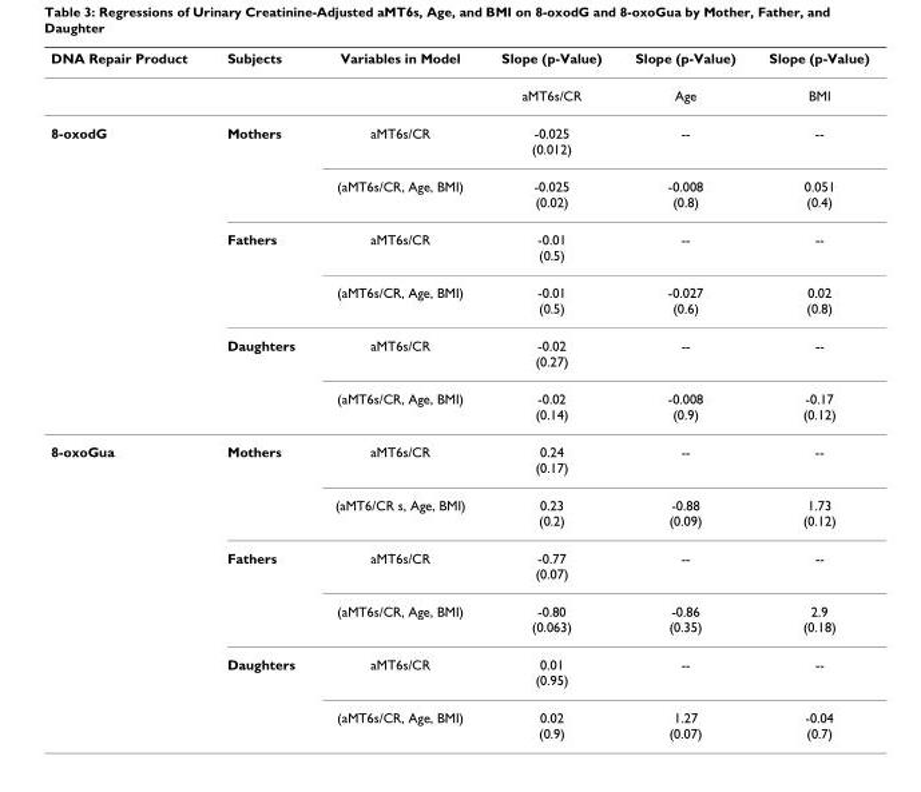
<table><thead><tr><td>DNA Repair Product</td><td>Subjects</td><td>Variables in Model</td><td>Slope (p-Value)</td><td>Slope (p-Value)</td><td>Slope (p-Value)</td></tr></thead><tbody><tr><td></td><td></td><td></td><td>aMT6s/CR</td><td>Age</td><td>BMI</td></tr><tr><td rowspan="6">8-oxodG</td><td>Mothers</td><td>aMT6s/CR</td><td>-0.025 (0.012)</td><td>--</td><td>--</td></tr><tr><td></td><td>(aMT6s/CR, Age, BMI)</td><td>-0.025 (0.02)</td><td>-0.008 (0.8)</td><td>0.051 (0.4)</td></tr><tr><td>Fathers</td><td>aMT6s/CR</td><td>-0.01 (0.5)</td><td>--</td><td>--</td></tr><tr><td></td><td>(aMT6s/CR, Age, BMI)</td><td>-0.01 (0.5)</td><td>-0.027 (0.6)</td><td>0.02 (0.8)</td></tr><tr><td>Daughters</td><td>aMT6s/CR</td><td>-0.02 (0.27)</td><td>--</td><td>--</td></tr><tr><td></td><td>(aMT6s/CR, Age, BMI)</td><td>-0.02 (0.14)</td><td>-0.008 (0.9)</td><td>-0.17 (0.12)</td></tr><tr><td rowspan="6">8-oxoGua</td><td>Mothers</td><td>aMT6s/CR</td><td>0.24 (0.17)</td><td>--</td><td>--</td></tr><tr><td></td><td>(aMT6/CR s, Age, BMI)</td><td>0.23 (0.2)</td><td>-0.88 (0.09)</td><td>1.73 (0.12)</td></tr><tr><td>Fathers</td><td>aMT6s/CR</td><td>-0.77 (0.07)</td><td>--</td><td>--</td></tr><tr><td></td><td>(aMT6s/CR, Age, BMI)</td><td>-0.80 (0.063)</td><td>-0.86 (0.35)</td><td>2.9 (0.18)</td></tr><tr><td>Daughters</td><td>aMT6s/CR</td><td>0.01 (0.95)</td><td>--</td><td>--</td></tr><tr><td></td><td>(aMT6s/CR, Age, BMI)</td><td>0.02 (0.9)</td><td>1.27 (0.07)</td><td>-0.04 (0.7)</td></tr></tbody></table>